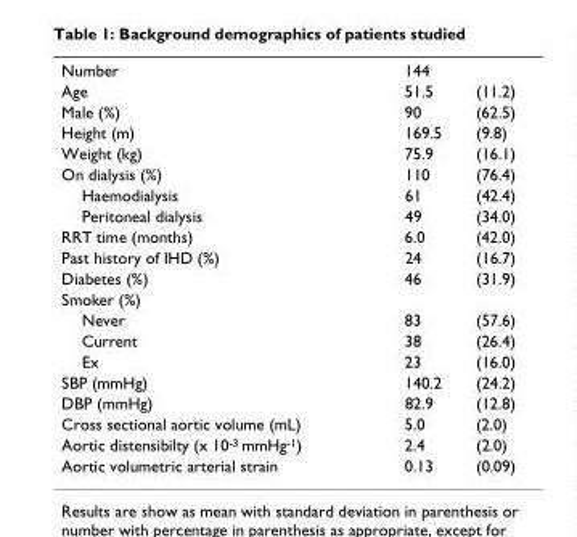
<table><tbody><tr><td>Number</td><td>144</td><td></td></tr><tr><td>Age</td><td>51.5</td><td>(11.2)</td></tr><tr><td>Male (%)</td><td>90</td><td>(62.5)</td></tr><tr><td>Height (m)</td><td>169.5</td><td>(9.8)</td></tr><tr><td>Weight (kg)</td><td>75.9</td><td>(16.1)</td></tr><tr><td>On dialysis (%)</td><td>110</td><td>(76.4)</td></tr><tr><td>Haemodialysis</td><td>61</td><td>(42.4)</td></tr><tr><td>Peritoneal dialysis</td><td>49</td><td>(34.0)</td></tr><tr><td>RRT time (months)</td><td>6.0</td><td>(42.0)</td></tr><tr><td>Past history of IHD (%)</td><td>24</td><td>(16.7)</td></tr><tr><td>Diabetes (%)</td><td>46</td><td>(31.9)</td></tr><tr><td colspan="3">Smoker (%)</td></tr><tr><td>Never</td><td>83</td><td>(57.6)</td></tr><tr><td>Current</td><td>38</td><td>(26.4)</td></tr><tr><td>Ex</td><td>23</td><td>(16.0)</td></tr><tr><td>SBP (mmHg)</td><td>140.2</td><td>(24.2)</td></tr><tr><td>DBP (mmHg)</td><td>82.9</td><td>(12.8)</td></tr><tr><td>Cross sectional aortic volume (mL)</td><td>5.0</td><td>(2.0)</td></tr><tr><td>Aortic distensibilty (x 10<sup>-3</sup> mmHg<sup>-1</sup>)</td><td>2.4</td><td>(2.0)</td></tr><tr><td>Aortic volumetric arterial strain</td><td>0.13</td><td>(0.09)</td></tr></tbody></table>